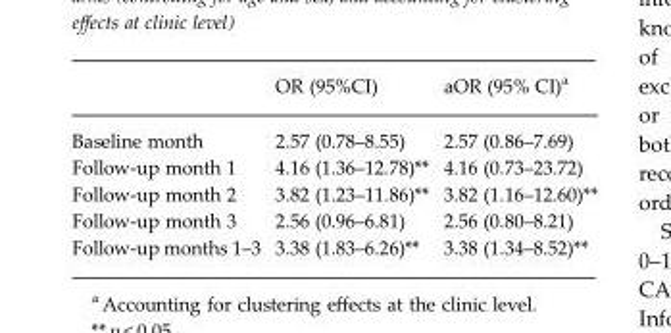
<table><thead><tr><td></td><td>OR (95%CI)</td><td>aOR (95% CI)<sup>a</sup></td></tr></thead><tbody><tr><td>Baseline month</td><td>2.57 (0.78–8.55)</td><td>2.57 (0.86–7.69)</td></tr><tr><td>Follow-up month 1</td><td>4.16 (1.36–12.78)**</td><td>4.16 (0.73–23.72)</td></tr><tr><td>Follow-up month 2</td><td>3.82 (1.23–11.86)**</td><td>3.82 (1.16–12.60)**</td></tr><tr><td>Follow-up month 3</td><td>2.56 (0.96–6.81)</td><td>2.56 (0.80–8.21)</td></tr><tr><td>Follow-up months 1–3</td><td>3.38 (1.83–6.26)**</td><td>3.38 (1.34–8.52)**</td></tr></tbody></table>